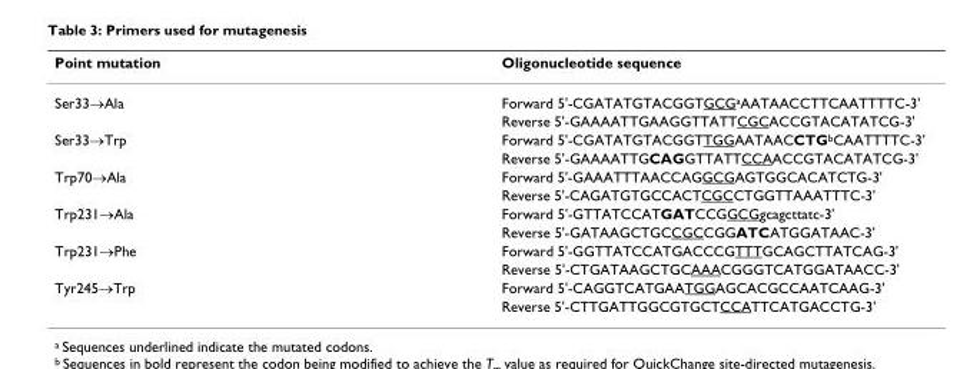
<table><thead><tr><td>Point mutation</td><td>Oligonucleotide sequence</td></tr></thead><tbody><tr><td rowspan="2">Ser33→Ala</td><td>Forward 5&#x27;-CGATATGTACGGTGCG<sup>a</sup>AATAACCTTCAATTTTC-3&#x27;</td></tr><tr><td>Reverse 5&#x27;-GAAAATTGAAGGTTATTCGCACCGTACATATCG-3&#x27;</td></tr><tr><td rowspan="2">Ser33→Trp</td><td>Forward 5&#x27;-CGATATGTACGGTTGGAATAACCTG<sup>b</sup>CAATTTTC-3&#x27;</td></tr><tr><td>Reverse 5&#x27;-GAAAATTGCAGGTTATTCCAACCGTACATATCG-3&#x27;</td></tr><tr><td rowspan="2">Trp70→Ala</td><td>Forward 5&#x27;-GAAATTTAACCAGGCGAGTGGCACATCTG-3&#x27;</td></tr><tr><td>Reverse 5&#x27;-CAGATGTGCCACTCGCCTGGTTAAATTTC-3&#x27;</td></tr><tr><td rowspan="2">Trp231→Ala</td><td>Forward 5&#x27;-GTTATCCATGATCCGGCGgcagcttatc-3&#x27;</td></tr><tr><td>Reverse 5&#x27;-GATAAGCTGCCGCCGGATCATGGATAAC-3&#x27;</td></tr><tr><td rowspan="2">Trp231→Phe</td><td>Forward 5&#x27;-GGTTATCCATGACCCGTTTGCAGCTTATCAG-3&#x27;</td></tr><tr><td>Reverse 5&#x27;-CTGATAAGCTGCAAACGGGTCATGGATAACC-3&#x27;</td></tr><tr><td rowspan="2">Tyr245→Trp</td><td>Forward 5&#x27;-CAGGTCATGAATGGAGCACGCCAATCAAG-3&#x27;</td></tr><tr><td>Reverse 5&#x27;-CTTGATTGGCGTGCTCCATTCATGACCTG-3&#x27;</td></tr></tbody></table>